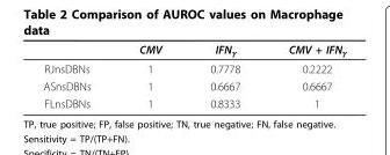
<table><thead><tr><td></td><td>CMV</td><td>IFN<sub>γ</sub></td><td>CMV + IFN<sub>γ</sub></td></tr></thead><tbody><tr><td>RJnsDBNs</td><td>1</td><td>0.7778</td><td>0.2222</td></tr><tr><td>ASnsDBNs</td><td>1</td><td>0.6667</td><td>0.6667</td></tr><tr><td>FLnsDBNs</td><td>1</td><td>0.8333</td><td>1</td></tr></tbody></table>